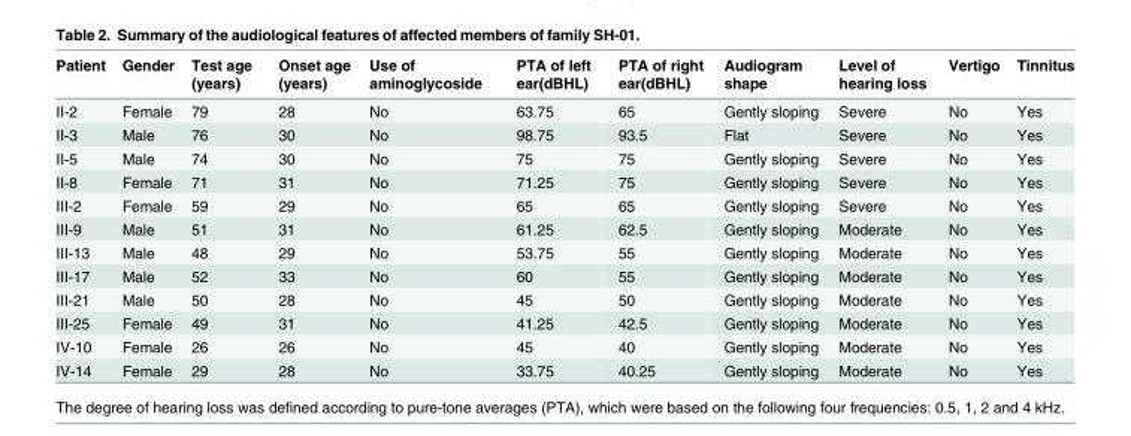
<table><thead><tr><td>Patient</td><td>Gender</td><td>Test age (years)</td><td>Onset age (years)</td><td>Use of aminoglycoside</td><td>PTA of left ear(dBHL)</td><td>PTA of right ear(dBHL)</td><td>Audiogram shape</td><td>Level of hearing loss</td><td>Vertigo</td><td>Tinnitus</td></tr></thead><tbody><tr><td>II-2</td><td>Female</td><td>79</td><td>28</td><td>No</td><td>63.75</td><td>65</td><td>Gently sloping</td><td>Severe</td><td>No</td><td>Yes</td></tr><tr><td>II-3</td><td>Male</td><td>76</td><td>30</td><td>No</td><td>98.75</td><td>93.5</td><td>Flat</td><td>Severe</td><td>No</td><td>Yes</td></tr><tr><td>II-5</td><td>Male</td><td>74</td><td>30</td><td>No</td><td>75</td><td>75</td><td>Gently sloping</td><td>Severe</td><td>No</td><td>Yes</td></tr><tr><td>II-8</td><td>Female</td><td>71</td><td>31</td><td>No</td><td>71.25</td><td>75</td><td>Gently sloping</td><td>Severe</td><td>No</td><td>Yes</td></tr><tr><td>III-2</td><td>Female</td><td>59</td><td>29</td><td>No</td><td>65</td><td>65</td><td>Gently sloping</td><td>Severe</td><td>No</td><td>Yes</td></tr><tr><td>III-9</td><td>Male</td><td>51</td><td>31</td><td>No</td><td>61.25</td><td>62.5</td><td>Gently sloping</td><td>Moderate</td><td>No</td><td>Yes</td></tr><tr><td>III-13</td><td>Male</td><td>48</td><td>29</td><td>No</td><td>53.75</td><td>55</td><td>Gently sloping</td><td>Moderate</td><td>No</td><td>Yes</td></tr><tr><td>III-17</td><td>Male</td><td>52</td><td>33</td><td>No</td><td>60</td><td>55</td><td>Gently sloping</td><td>Moderate</td><td>No</td><td>Yes</td></tr><tr><td>III-21</td><td>Male</td><td>50</td><td>28</td><td>No</td><td>45</td><td>50</td><td>Gently sloping</td><td>Moderate</td><td>No</td><td>Yes</td></tr><tr><td>III-25</td><td>Female</td><td>49</td><td>31</td><td>No</td><td>41.25</td><td>42.5</td><td>Gently sloping</td><td>Moderate</td><td>No</td><td>Yes</td></tr><tr><td>IV-10</td><td>Female</td><td>26</td><td>26</td><td>No</td><td>45</td><td>40</td><td>Gently sloping</td><td>Moderate</td><td>No</td><td>Yes</td></tr><tr><td>IV-14</td><td>Female</td><td>29</td><td>28</td><td>No</td><td>33.75</td><td>40.25</td><td>Gently sloping</td><td>Moderate</td><td>No</td><td>Yes</td></tr></tbody></table>